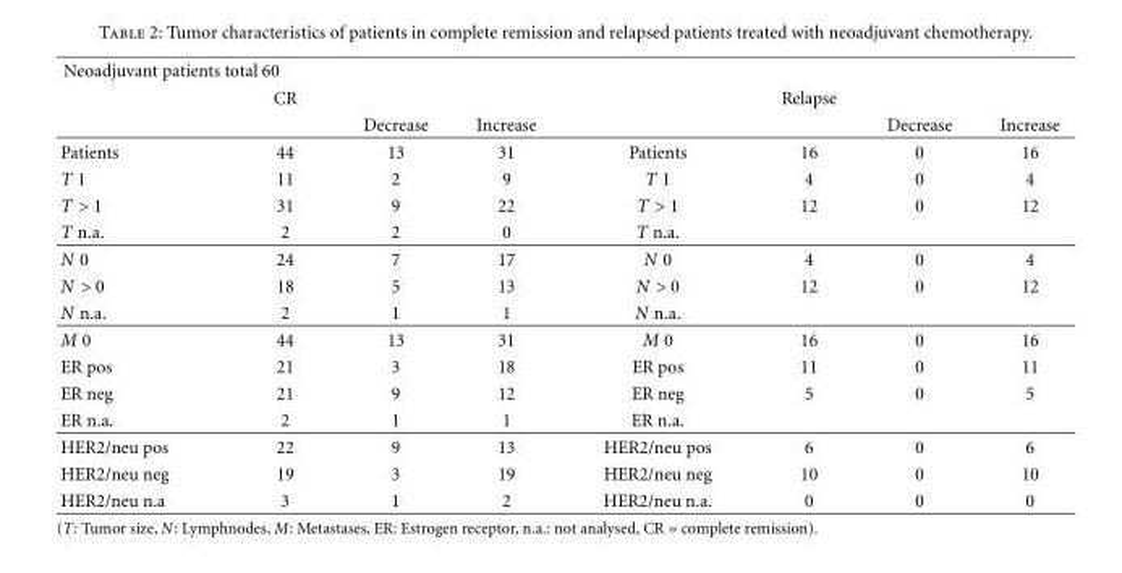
<table><thead><tr><td colspan="4">Neoadjuvant patients total 60</td><td rowspan="3"></td><td rowspan="3">Relapse</td><td rowspan="3">Decrease</td><td rowspan="3">Increase</td></tr><tr><td rowspan="2"></td><td rowspan="2">CR</td><td rowspan="2">Decrease</td><td rowspan="2">Increase</td></tr><tr></tr></thead><tbody><tr><td>Patients</td><td>44</td><td>13</td><td>31</td><td>Patients</td><td>16</td><td>0</td><td>16</td></tr><tr><td>T 1</td><td>11</td><td>2</td><td>9</td><td>T 1</td><td>4</td><td>0</td><td>4</td></tr><tr><td>T &gt; 1</td><td>31</td><td>9</td><td>22</td><td>T &gt; 1</td><td>12</td><td>0</td><td>12</td></tr><tr><td>T n.a.</td><td>2</td><td>2</td><td>0</td><td>T n.a.</td><td></td><td></td><td></td></tr><tr><td>N 0</td><td>24</td><td>7</td><td>17</td><td>N 0</td><td>4</td><td>0</td><td>4</td></tr><tr><td>N &gt; 0</td><td>18</td><td>5</td><td>13</td><td>N &gt; 0</td><td>12</td><td>0</td><td>12</td></tr><tr><td>N n.a.</td><td>2</td><td>1</td><td>1</td><td>N n.a.</td><td></td><td></td><td></td></tr><tr><td>M 0</td><td>44</td><td>13</td><td>31</td><td>M 0</td><td>16</td><td>0</td><td>16</td></tr><tr><td>ER pos</td><td>21</td><td>3</td><td>18</td><td>ER pos</td><td>11</td><td>0</td><td>11</td></tr><tr><td>ER neg</td><td>21</td><td>9</td><td>12</td><td>ER neg</td><td>5</td><td>0</td><td>5</td></tr><tr><td>ER n.a.</td><td>2</td><td>1</td><td>1</td><td>ER n.a.</td><td></td><td></td><td></td></tr><tr><td>HER2/neu pos</td><td>22</td><td>9</td><td>13</td><td>HER2/neu pos</td><td>6</td><td>0</td><td>6</td></tr><tr><td>HER2/neu neg</td><td>19</td><td>3</td><td>19</td><td>HER2/neu neg</td><td>10</td><td>0</td><td>10</td></tr><tr><td>HER2/neu n.a</td><td>3</td><td>1</td><td>2</td><td>HER2/neu n.a.</td><td>0</td><td>0</td><td>0</td></tr></tbody></table>